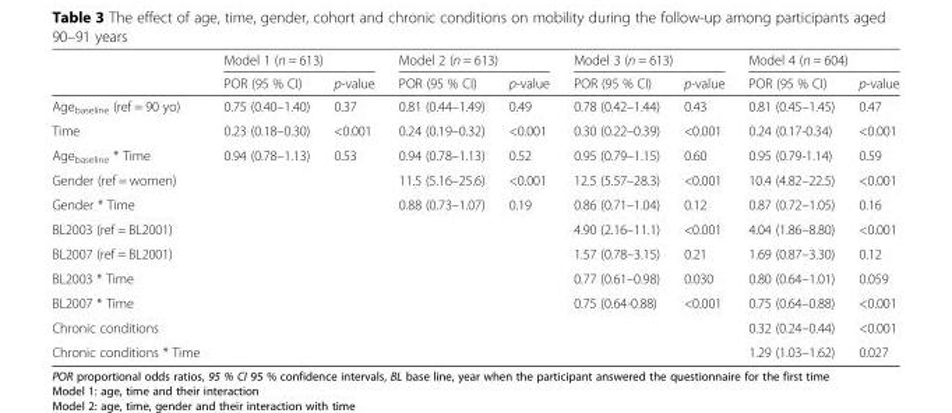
<table><thead><tr><td rowspan="2"></td><td colspan="2">Model 1 (n = 613)</td><td colspan="2">Model 2 (n = 613)</td><td colspan="2">Model 3 (n = 613)</td><td colspan="2">Model 4 (n = 604)</td></tr><tr><td>POR (95 % CI)</td><td>p-value</td><td>POR (95 % CI)</td><td>p-value</td><td>POR (95 % CI)</td><td>p-value</td><td>POR (95 % CI)</td><td>p-value</td></tr></thead><tbody><tr><td>Age<sub>baseline</sub> (ref = 90 yo)</td><td>0.75 (0.40–1.40)</td><td>0.37</td><td>0.81 (0.44–1.49)</td><td>0.49</td><td>0.78 (0.42–1.44)</td><td>0.43</td><td>0.81 (0.45–1.45)</td><td>0.47</td></tr><tr><td>Time</td><td>0.23 (0.18–0.30)</td><td>&lt;0.001</td><td>0.24 (0.19–0.32)</td><td>&lt;0.001</td><td>0.30 (0.22–0.39)</td><td>&lt;0.001</td><td>0.24 (0.17-0.34)</td><td>&lt;0.001</td></tr><tr><td>Age<sub>baseline</sub> * Time</td><td>0.94 (0.78–1.13)</td><td>0.53</td><td>0.94 (0.78–1.13)</td><td>0.52</td><td>0.95 (0.79–1.15)</td><td>0.60</td><td>0.95 (0.79-1.14)</td><td>0.59</td></tr><tr><td>Gender (ref = women)</td><td></td><td></td><td>11.5 (5.16–25.6)</td><td>&lt;0.001</td><td>12.5 (5.57–28.3)</td><td>&lt;0.001</td><td>10.4 (4.82–22.5)</td><td>&lt;0.001</td></tr><tr><td>Gender * Time</td><td></td><td></td><td>0.88 (0.73–1.07)</td><td>0.19</td><td>0.86 (0.71–1.04)</td><td>0.12</td><td>0.87 (0.72–1.05)</td><td>0.16</td></tr><tr><td>BL2003 (ref = BL2001)</td><td></td><td></td><td></td><td></td><td>4.90 (2.16–11.1)</td><td>&lt;0.001</td><td>4.04 (1.86–8.80)</td><td>&lt;0.001</td></tr><tr><td>BL2007 (ref = BL2001)</td><td></td><td></td><td></td><td></td><td>1.57 (0.78–3.15)</td><td>0.21</td><td>1.69 (0.87–3.30)</td><td>0.12</td></tr><tr><td>BL2003 * Time</td><td></td><td></td><td></td><td></td><td>0.77 (0.61–0.98)</td><td>0.030</td><td>0.80 (0.64–1.01)</td><td>0.059</td></tr><tr><td>BL2007 * Time</td><td></td><td></td><td></td><td></td><td>0.75 (0.64-0.88)</td><td>&lt;0.001</td><td>0.75 (0.64–0.88)</td><td>&lt;0.001</td></tr><tr><td>Chronic conditions</td><td></td><td></td><td></td><td></td><td></td><td></td><td>0.32 (0.24–0.44)</td><td>&lt;0.001</td></tr><tr><td>Chronic conditions * Time</td><td></td><td></td><td></td><td></td><td></td><td></td><td>1.29 (1.03–1.62)</td><td>0.027</td></tr></tbody></table>